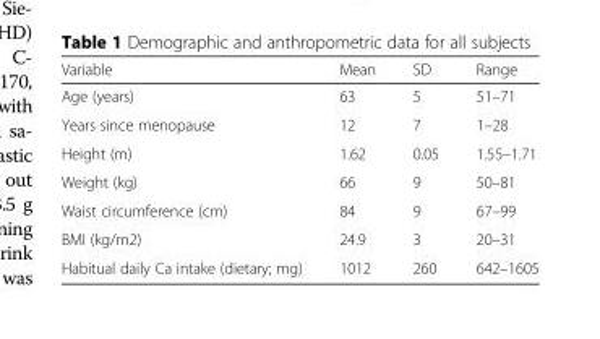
<table><thead><tr><td>Variable</td><td>Mean</td><td>SD</td><td>Range</td></tr></thead><tbody><tr><td>Age (years)</td><td>63</td><td>5</td><td>51–71</td></tr><tr><td>Years since menopause</td><td>12</td><td>7</td><td>1–28</td></tr><tr><td>Height (m)</td><td>1.62</td><td>0.05</td><td>1.55–1.71</td></tr><tr><td>Weight (kg)</td><td>66</td><td>9</td><td>50–81</td></tr><tr><td>Waist circumference (cm)</td><td>84</td><td>9</td><td>67–99</td></tr><tr><td>BMI (kg/m2)</td><td>24.9</td><td>3</td><td>20–31</td></tr><tr><td>Habitual daily Ca intake (dietary; mg)</td><td>1012</td><td>260</td><td>642–1605</td></tr></tbody></table>